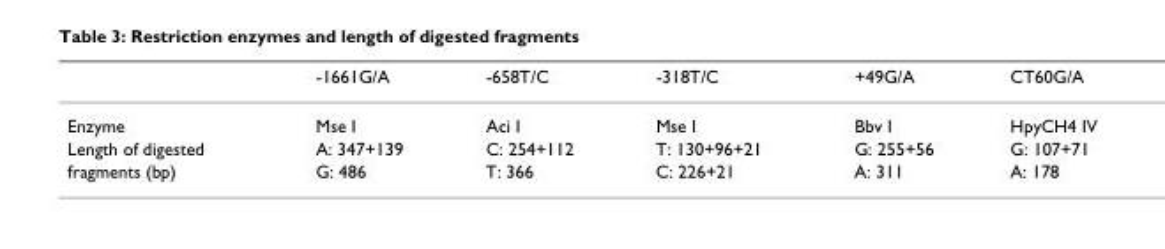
<table><thead><tr><td></td><td>-1661G/A</td><td>-658T/C</td><td>-318T/C</td><td>+49G/A</td><td>CT60G/A</td></tr></thead><tbody><tr><td>Enzyme</td><td>Mse I</td><td>Aci I</td><td>Mse I</td><td>Bbv I</td><td>HpyCH4 IV</td></tr><tr><td>Length of digested</td><td>A: 347+139</td><td>C: 254+112</td><td>T: 130+96+21</td><td>G: 255+56</td><td>G: 107+71</td></tr><tr><td>fragments (bp)</td><td>G: 486</td><td>T: 366</td><td>C: 226+21</td><td>A: 311</td><td>A: 178</td></tr></tbody></table>